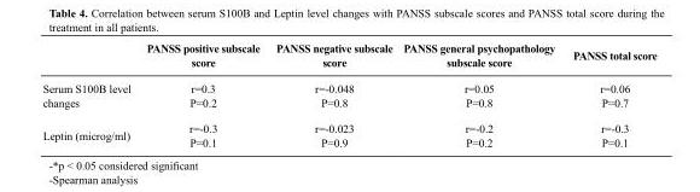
<table><thead><tr><td></td><td>PANSS positive subscale score</td><td>PANSS negative subscale score</td><td>PANSS general psychopathology subscale score</td><td>PANSS total score</td></tr></thead><tbody><tr><td>Serum S100B level changes</td><td>r=0.3 P=0.2</td><td>r=-0.048 P=0.8</td><td>r=0.05 P=0.8</td><td>r=0.06 P=0.7</td></tr><tr><td>Leptin (microg/ml)</td><td>r=-0.3 P=0.1</td><td>r=-0.023 P=0.9</td><td>r=-0.2 P=0.2</td><td>r=-0.3 P=0.1</td></tr></tbody></table>